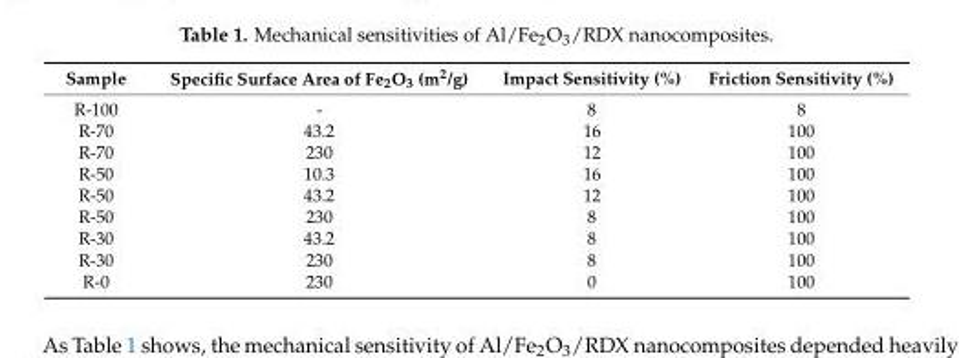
<table><thead><tr><td>Sample</td><td>Specific Surface Area of Fe<sub>2</sub>O<sub>3</sub> (m<sup>2</sup>/g)</td><td>Impact Sensitivity (%)</td><td>Friction Sensitivity (%)</td></tr></thead><tbody><tr><td>R-100</td><td>-</td><td>8</td><td>8</td></tr><tr><td>R-70</td><td>43.2</td><td>16</td><td>100</td></tr><tr><td>R-70</td><td>230</td><td>12</td><td>100</td></tr><tr><td>R-50</td><td>10.3</td><td>16</td><td>100</td></tr><tr><td>R-50</td><td>43.2</td><td>12</td><td>100</td></tr><tr><td>R-50</td><td>230</td><td>8</td><td>100</td></tr><tr><td>R-30</td><td>43.2</td><td>8</td><td>100</td></tr><tr><td>R-30</td><td>230</td><td>8</td><td>100</td></tr><tr><td>R-0</td><td>230</td><td>0</td><td>100</td></tr></tbody></table>